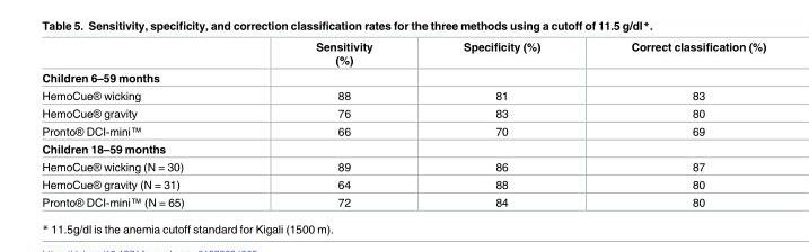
<table><thead><tr><td></td><td>Sensitivity (%)</td><td>Specificity (%)</td><td>Correct classification (%)</td></tr></thead><tbody><tr><td colspan="4">Children 6–59 months</td></tr><tr><td>HemoCue® wicking</td><td>88</td><td>81</td><td>83</td></tr><tr><td>HemoCue® gravity</td><td>76</td><td>83</td><td>80</td></tr><tr><td>Pronto® DCI-mini™</td><td>66</td><td>70</td><td>69</td></tr><tr><td colspan="4">Children 18–59 months</td></tr><tr><td>HemoCue® wicking (N = 30)</td><td>89</td><td>86</td><td>87</td></tr><tr><td>HemoCue® gravity (N = 31)</td><td>64</td><td>88</td><td>80</td></tr><tr><td>Pronto® DCI-mini™ (N = 65)</td><td>72</td><td>84</td><td>80</td></tr></tbody></table>